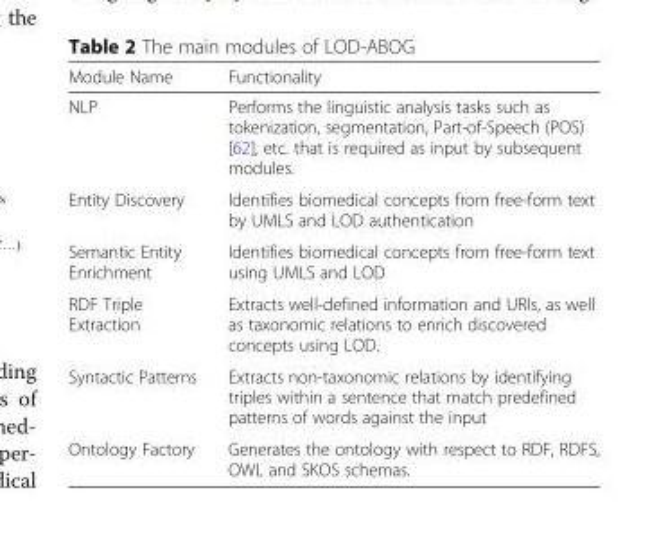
<table><thead><tr><td>Module Name</td><td>Functionality</td></tr></thead><tbody><tr><td>NLP</td><td>Performs the linguistic analysis tasks such as tokenization, segmentation, Part-of-Speech (POS) [62], etc. that is required as input by subsequent modules.</td></tr><tr><td>Entity Discovery</td><td>Identifies biomedical concepts from free-form text by UMLS and LOD authentication</td></tr><tr><td>Semantic Entity Enrichment</td><td>Identifies biomedical concepts from free-form text using UMLS and LOD</td></tr><tr><td>RDF Triple Extraction</td><td>Extracts well-defined information and URIs, as well as taxonomic relations to enrich discovered concepts using LOD.</td></tr><tr><td>Syntactic Patterns</td><td>Extracts non-taxonomic relations by identifying triples within a sentence that match predefined patterns of words against the input</td></tr><tr><td>Ontology Factory</td><td>Generates the ontology with respect to RDF, RDFS, OWL and SKOS schemas.</td></tr></tbody></table>